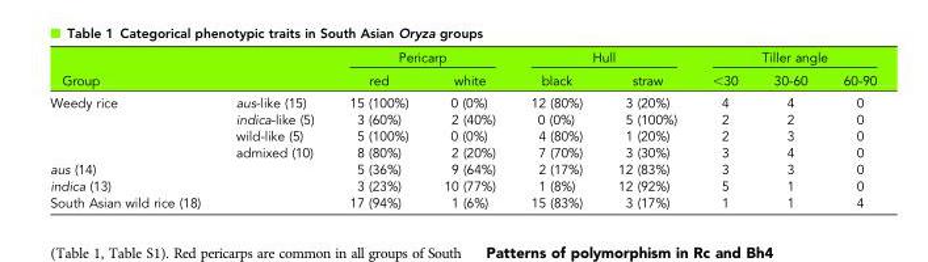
<table><thead><tr><td rowspan="2">Group</td><td rowspan="2"></td><td colspan="2">Pericarp</td><td colspan="2">Hull</td><td colspan="3">Tiller angle</td></tr><tr><td>red</td><td>white</td><td>black</td><td>straw</td><td>&lt;30</td><td>30-60</td><td>60-90</td></tr></thead><tbody><tr><td rowspan="4">Weedy rice</td><td>aus-like (15)</td><td>15 (100%)</td><td>0 (0%)</td><td>12 (80%)</td><td>3 (20%)</td><td>4</td><td>4</td><td>0</td></tr><tr><td>indica-like (5)</td><td>3 (60%)</td><td>2 (40%)</td><td>0 (0%)</td><td>5 (100%)</td><td>2</td><td>2</td><td>0</td></tr><tr><td>wild-like (5)</td><td>5 (100%)</td><td>0 (0%)</td><td>4 (80%)</td><td>1 (20%)</td><td>2</td><td>3</td><td>0</td></tr><tr><td>admixed (10)</td><td>8 (80%)</td><td>2 (20%)</td><td>7 (70%)</td><td>3 (30%)</td><td>3</td><td>4</td><td>0</td></tr><tr><td>aus (14)</td><td></td><td>5 (36%)</td><td>9 (64%)</td><td>2 (17%)</td><td>12 (83%)</td><td>3</td><td>3</td><td>0</td></tr><tr><td>indica (13)</td><td></td><td>3 (23%)</td><td>10 (77%)</td><td>1 (8%)</td><td>12 (92%)</td><td>5</td><td>1</td><td>0</td></tr><tr><td>South Asian wild rice (18)</td><td></td><td>17 (94%)</td><td>1 (6%)</td><td>15 (83%)</td><td>3 (17%)</td><td>1</td><td>1</td><td>4</td></tr></tbody></table>